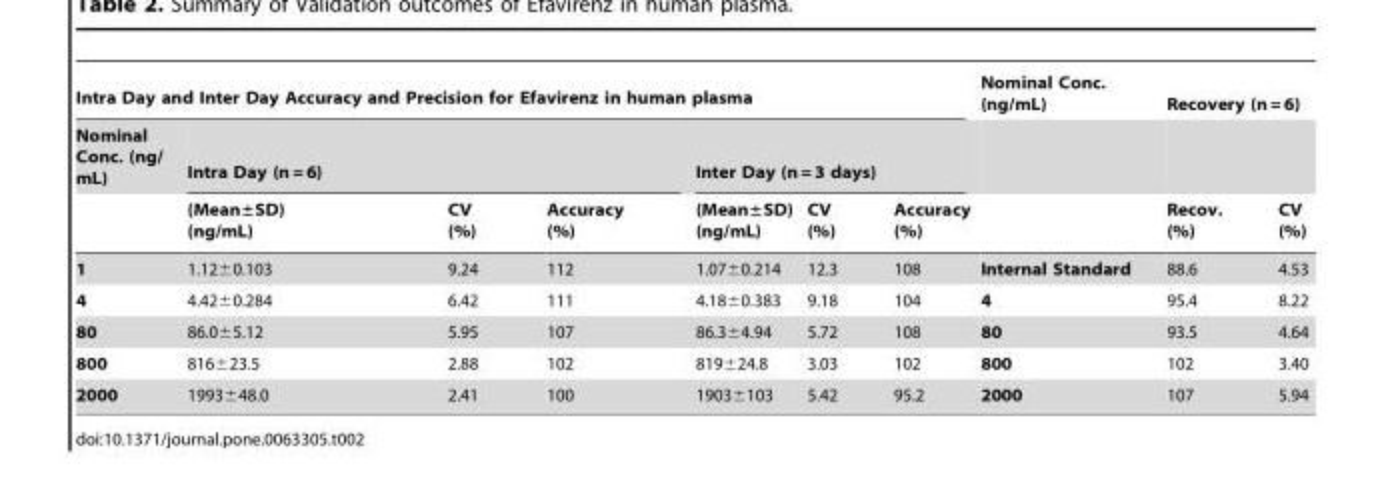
<table><thead><tr><td colspan="7">Intra Day and Inter Day Accuracy and Precision for Efavirenz in human plasma</td><td rowspan="3">Nominal Conc. (ng/mL)</td><td colspan="2">Recovery (n = 6)</td></tr><tr><td rowspan="2">Nominal Conc. (ng/ mL)</td><td colspan="3">Intra Day (n = 6)</td><td colspan="3">Inter Day (n = 3 days)</td><td rowspan="2">Recov. (%)</td><td rowspan="2">CV (%)</td></tr><tr><td>(Mean±SD) (ng/mL)</td><td>CV (%)</td><td>Accuracy (%)</td><td>(Mean±SD) (ng/mL)</td><td>CV (%)</td><td>Accuracy (%)</td></tr></thead><tbody><tr><td>1</td><td>1.12±0.103</td><td>9.24</td><td>112</td><td>1.07±0.214</td><td>12.3</td><td>108</td><td>Internal Standard</td><td>88.6</td><td>4.53</td></tr><tr><td>4</td><td>4.42±0.284</td><td>6.42</td><td>111</td><td>4.18±0.383</td><td>9.18</td><td>104</td><td>4</td><td>95.4</td><td>8.22</td></tr><tr><td>80</td><td>86.0±5.12</td><td>5.95</td><td>107</td><td>86.3±4.94</td><td>5.72</td><td>108</td><td>80</td><td>93.5</td><td>4.64</td></tr><tr><td>800</td><td>816±23.5</td><td>2.88</td><td>102</td><td>819±24.8</td><td>3.03</td><td>102</td><td>800</td><td>102</td><td>3.40</td></tr><tr><td>2000</td><td>1993±48.0</td><td>2.41</td><td>100</td><td>1903±103</td><td>5.42</td><td>95.2</td><td>2000</td><td>107</td><td>5.94</td></tr></tbody></table>